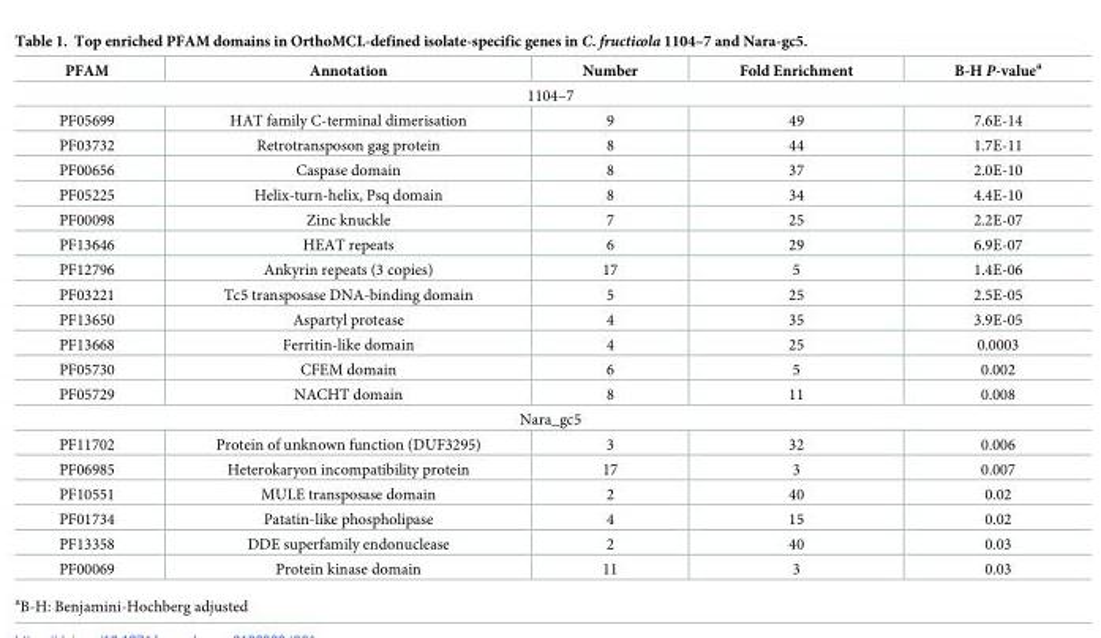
<table><thead><tr><td>PFAM</td><td>Annotation</td><td>Number</td><td>Fold Enrichment</td><td>B-H P-value<sup>a</sup></td></tr></thead><tbody><tr><td colspan="5">1104–7</td></tr><tr><td>PF05699</td><td>HAT family C-terminal dimerisation</td><td>9</td><td>49</td><td>7.6E-14</td></tr><tr><td>PF03732</td><td>Retrotransposon gag protein</td><td>8</td><td>44</td><td>1.7E-11</td></tr><tr><td>PF00656</td><td>Caspase domain</td><td>8</td><td>37</td><td>2.0E-10</td></tr><tr><td>PF05225</td><td>Helix-turn-helix, Psq domain</td><td>8</td><td>34</td><td>4.4E-10</td></tr><tr><td>PF00098</td><td>Zinc knuckle</td><td>7</td><td>25</td><td>2.2E-07</td></tr><tr><td>PF13646</td><td>HEAT repeats</td><td>6</td><td>29</td><td>6.9E-07</td></tr><tr><td>PF12796</td><td>Ankyrin repeats (3 copies)</td><td>17</td><td>5</td><td>1.4E-06</td></tr><tr><td>PF03221</td><td>Tc5 transposase DNA-binding domain</td><td>5</td><td>25</td><td>2.5E-05</td></tr><tr><td>PF13650</td><td>Aspartyl protease</td><td>4</td><td>35</td><td>3.9E-05</td></tr><tr><td>PF13668</td><td>Ferritin-like domain</td><td>4</td><td>25</td><td>0.0003</td></tr><tr><td>PF05730</td><td>CFEM domain</td><td>6</td><td>5</td><td>0.002</td></tr><tr><td>PF05729</td><td>NACHT domain</td><td>8</td><td>11</td><td>0.008</td></tr><tr><td colspan="5">Nara_gc5</td></tr><tr><td>PF11702</td><td>Protein of unknown function (DUF3295)</td><td>3</td><td>32</td><td>0.006</td></tr><tr><td>PF06985</td><td>Heterokaryon incompatibility protein</td><td>17</td><td>3</td><td>0.007</td></tr><tr><td>PF10551</td><td>MULE transposase domain</td><td>2</td><td>40</td><td>0.02</td></tr><tr><td>PF01734</td><td>Patatin-like phospholipase</td><td>4</td><td>15</td><td>0.02</td></tr><tr><td>PF13358</td><td>DDE superfamily endonuclease</td><td>2</td><td>40</td><td>0.03</td></tr><tr><td>PF00069</td><td>Protein kinase domain</td><td>11</td><td>3</td><td>0.03</td></tr></tbody></table>